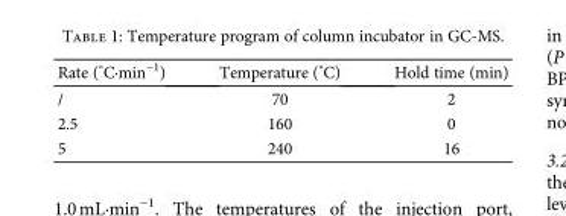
<table><thead><tr><td>Rate (°C·min<sup>−1</sup>)</td><td>Temperature (°C)</td><td>Hold time (min)</td></tr></thead><tbody><tr><td>/</td><td>70</td><td>2</td></tr><tr><td>2.5</td><td>160</td><td>0</td></tr><tr><td>5</td><td>240</td><td>16</td></tr></tbody></table>